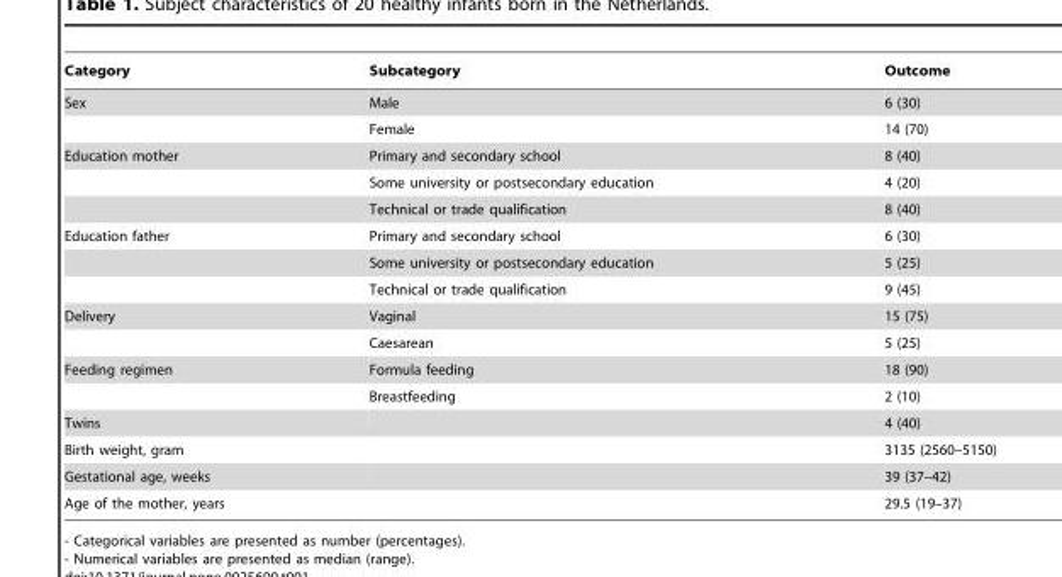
<table><thead><tr><td>Category</td><td>Subcategory</td><td>Outcome</td></tr></thead><tbody><tr><td rowspan="2">Sex</td><td>Male</td><td>6 (30)</td></tr><tr><td>Female</td><td>14 (70)</td></tr><tr><td rowspan="3">Education mother</td><td>Primary and secondary school</td><td>8 (40)</td></tr><tr><td>Some university or postsecondary education</td><td>4 (20)</td></tr><tr><td>Technical or trade qualification</td><td>8 (40)</td></tr><tr><td rowspan="3">Education father</td><td>Primary and secondary school</td><td>6 (30)</td></tr><tr><td>Some university or postsecondary education</td><td>5 (25)</td></tr><tr><td>Technical or trade qualification</td><td>9 (45)</td></tr><tr><td rowspan="2">Delivery</td><td>Vaginal</td><td>15 (75)</td></tr><tr><td>Caesarean</td><td>5 (25)</td></tr><tr><td rowspan="2">Feeding regimen</td><td>Formula feeding</td><td>18 (90)</td></tr><tr><td>Breastfeeding</td><td>2 (10)</td></tr><tr><td>Twins</td><td></td><td>4 (40)</td></tr><tr><td>Birth weight, gram</td><td></td><td>3135 (2560–5150)</td></tr><tr><td>Gestational age, weeks</td><td></td><td>39 (37–42)</td></tr><tr><td>Age of the mother, years</td><td></td><td>29.5 (19–37)</td></tr></tbody></table>